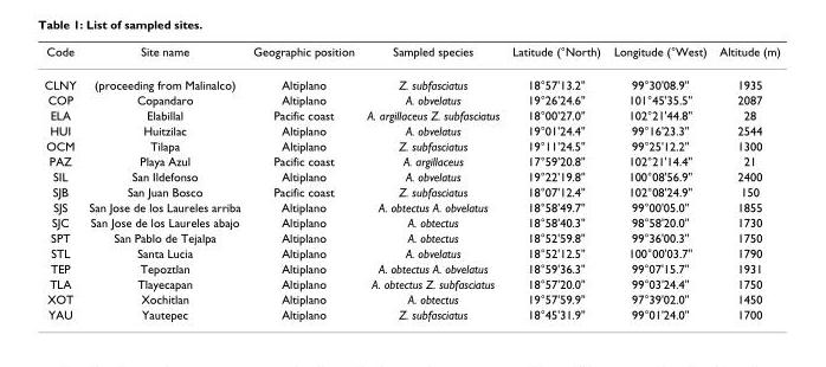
<table><thead><tr><td>Code</td><td>Site name</td><td>Geographic position</td><td>Sampled species</td><td>Latitude (°North)</td><td>Longitude (°West)</td><td>Altitude (m)</td></tr></thead><tbody><tr><td>CLNY</td><td>(proceeding from Malinalco)</td><td>Altiplano</td><td>Z. subfasciatus</td><td>18°57&#x27;13.2&quot;</td><td>99°30&#x27;08.9&quot;</td><td>1935</td></tr><tr><td>COP</td><td>Copandaro</td><td>Altiplano</td><td>A. obvelatus</td><td>19°26&#x27;24.6&quot;</td><td>101°45&#x27;35.5&quot;</td><td>2087</td></tr><tr><td>ELA</td><td>Elabillal</td><td>Pacific coast</td><td>A. argillaceus Z. subfasciatus</td><td>18°00&#x27;27.0&quot;</td><td>102°21&#x27;44.8&quot;</td><td>28</td></tr><tr><td>HUI</td><td>Huitzilac</td><td>Altiplano</td><td>A. obvelatus</td><td>19°01&#x27;24.4&quot;</td><td>99°16&#x27;23.3&quot;</td><td>2544</td></tr><tr><td>OCM</td><td>Tilapa</td><td>Altiplano</td><td>Z. subfasciatus</td><td>19°11&#x27;24.5&quot;</td><td>99°25&#x27;12.2&quot;</td><td>1300</td></tr><tr><td>PAZ</td><td>Playa Azul</td><td>Pacific coast</td><td>A. argillaceus</td><td>17°59&#x27;20.8&quot;</td><td>102°21&#x27;14.4&quot;</td><td>21</td></tr><tr><td>SIL</td><td>San Ildefonso</td><td>Altiplano</td><td>A. obvelatus</td><td>19°22&#x27;19.8&quot;</td><td>100°08&#x27;56.9&quot;</td><td>2400</td></tr><tr><td>SJB</td><td>San Juan Bosco</td><td>Pacific coast</td><td>Z. subfasciatus</td><td>18°07&#x27;12.4&quot;</td><td>102°08&#x27;24.9&quot;</td><td>150</td></tr><tr><td>SJS</td><td>San Jose de los Laureles arriba</td><td>Altiplano</td><td>A. obtectus A. obvelatus</td><td>18°58&#x27;49.7&quot;</td><td>99°00&#x27;05.0&quot;</td><td>1855</td></tr><tr><td>SJC</td><td>San Jose de los Laureles abajo</td><td>Altiplano</td><td>A. obtectus</td><td>18°58&#x27;40.3&quot;</td><td>98°58&#x27;20.0&quot;</td><td>1730</td></tr><tr><td>SPT</td><td>San Pablo de Tejalpa</td><td>Altiplano</td><td>A. obtectus</td><td>18°52&#x27;59.8&quot;</td><td>99°36&#x27;00.3&quot;</td><td>1750</td></tr><tr><td>STL</td><td>Santa Lucia</td><td>Altiplano</td><td>A. obvelatus</td><td>18°52&#x27;12.5&quot;</td><td>100°00&#x27;03.7&quot;</td><td>1790</td></tr><tr><td>TEP</td><td>Tepoztlan</td><td>Altiplano</td><td>A. obtectus A. obvelatus</td><td>18°59&#x27;36.3&quot;</td><td>99°07&#x27;15.7&quot;</td><td>1931</td></tr><tr><td>TLA</td><td>Tlayecapan</td><td>Altiplano</td><td>A. obtectus Z. subfasciatus</td><td>18°57&#x27;20.0&quot;</td><td>99°03&#x27;24.4&quot;</td><td>1750</td></tr><tr><td>XOT</td><td>Xochitlan</td><td>Altiplano</td><td>A. obtectus</td><td>19°57&#x27;59.9&quot;</td><td>97°39&#x27;02.0&quot;</td><td>1450</td></tr><tr><td>YAU</td><td>Yautepec</td><td>Altiplano</td><td>Z. subfasciatus</td><td>18°45&#x27;31.9&quot;</td><td>99°01&#x27;24.0&quot;</td><td>1700</td></tr></tbody></table>